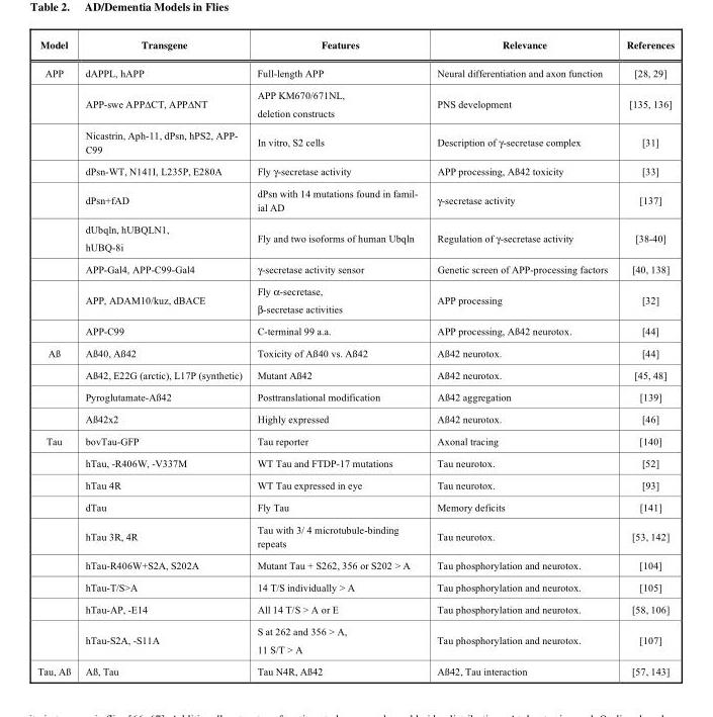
<table><thead><tr><td>Model</td><td>Transgene</td><td>Features</td><td>Relevance</td><td>References</td></tr></thead><tbody><tr><td rowspan="9">APP</td><td>dAPPL, hAPP</td><td>Full-length APP</td><td>Neural differentiation and axon function</td><td>[28, 29]</td></tr><tr><td>APP-swe APPΔCT, APPΔNT</td><td>APP KM670/671NL, deletion constructs</td><td>PNS development</td><td>[135, 136]</td></tr><tr><td>Nicastrin, Aph-11, dPsn, hPS2, APP- C99</td><td>In vitro, S2 cells</td><td>Description of γ-secretase complex</td><td>[31]</td></tr><tr><td>dPsn-WT, N141I, L235P, E280A</td><td>Fly γ-secretase activity</td><td>APP processing, Aß42 toxicity</td><td>[33]</td></tr><tr><td>dPsn+fAD</td><td>dPsn with 14 mutations found in famil- ial AD</td><td>γ-secretase activity</td><td>[137]</td></tr><tr><td>dUbqln, hUBQLN1, hUBQ-8i</td><td>Fly and two isoforms of human Ubqln</td><td>Regulation of γ-secretase activity</td><td>[38-40]</td></tr><tr><td>APP-Gal4, APP-C99-Gal4</td><td>γ-secretase activity sensor</td><td>Genetic screen of APP-processing factors</td><td>[40, 138]</td></tr><tr><td>APP, ADAM10/kuz, dBACE</td><td>Fly α-secretase, β-secretase activities</td><td>APP processing</td><td>[32]</td></tr><tr><td>APP-C99</td><td>C-terminal 99 a.a.</td><td>APP processing, Aß42 neurotox.</td><td>[44]</td></tr><tr><td rowspan="4">Aß</td><td>Aß40, Aß42</td><td>Toxicity of Aß40 vs. Aß42</td><td>Aß42 neurotox.</td><td>[44]</td></tr><tr><td>Aß42, E22G (arctic), L17P (synthetic)</td><td>Mutant Aß42</td><td>Aß42 neurotox.</td><td>[45, 48]</td></tr><tr><td>Pyroglutamate-Aß42</td><td>Posttranslational modification</td><td>Aß42 aggregation</td><td>[139]</td></tr><tr><td>Aß42x2</td><td>Highly expressed</td><td>Aß42 neurotox.</td><td>[46]</td></tr><tr><td rowspan="9">Tau</td><td>bovTau-GFP</td><td>Tau reporter</td><td>Axonal tracing</td><td>[140]</td></tr><tr><td>hTau, -R406W, -V337M</td><td>WT Tau and FTDP-17 mutations</td><td>Tau neurotox.</td><td>[52]</td></tr><tr><td>hTau 4R</td><td>WT Tau expressed in eye</td><td>Tau neurotox.</td><td>[93]</td></tr><tr><td>dTau</td><td>Fly Tau</td><td>Memory deficits</td><td>[141]</td></tr><tr><td>hTau 3R, 4R</td><td>Tau with 3/ 4 microtubule-binding repeats</td><td>Tau neurotox.</td><td>[53, 142]</td></tr><tr><td>hTau-R406W+S2A, S202A</td><td>Mutant Tau + S262, 356 or S202 &gt; A</td><td>Tau phosphorylation and neurotox.</td><td>[104]</td></tr><tr><td>hTau-T/S&gt;A</td><td>14 T/S individually &gt; A</td><td>Tau phosphorylation and neurotox.</td><td>[105]</td></tr><tr><td>hTau-AP, -E14</td><td>All 14 T/S &gt; A or E</td><td>Tau phosphorylation and neurotox.</td><td>[58, 106]</td></tr><tr><td>hTau-S2A, -S11A</td><td>S at 262 and 356 &gt; A, 11 S/T &gt; A</td><td>Tau phosphorylation and neurotox.</td><td>[107]</td></tr><tr><td>Tau, Aß</td><td>Aß, Tau</td><td>Tau N4R, Aß42</td><td>Aß42, Tau interaction</td><td>[57, 143]</td></tr></tbody></table>